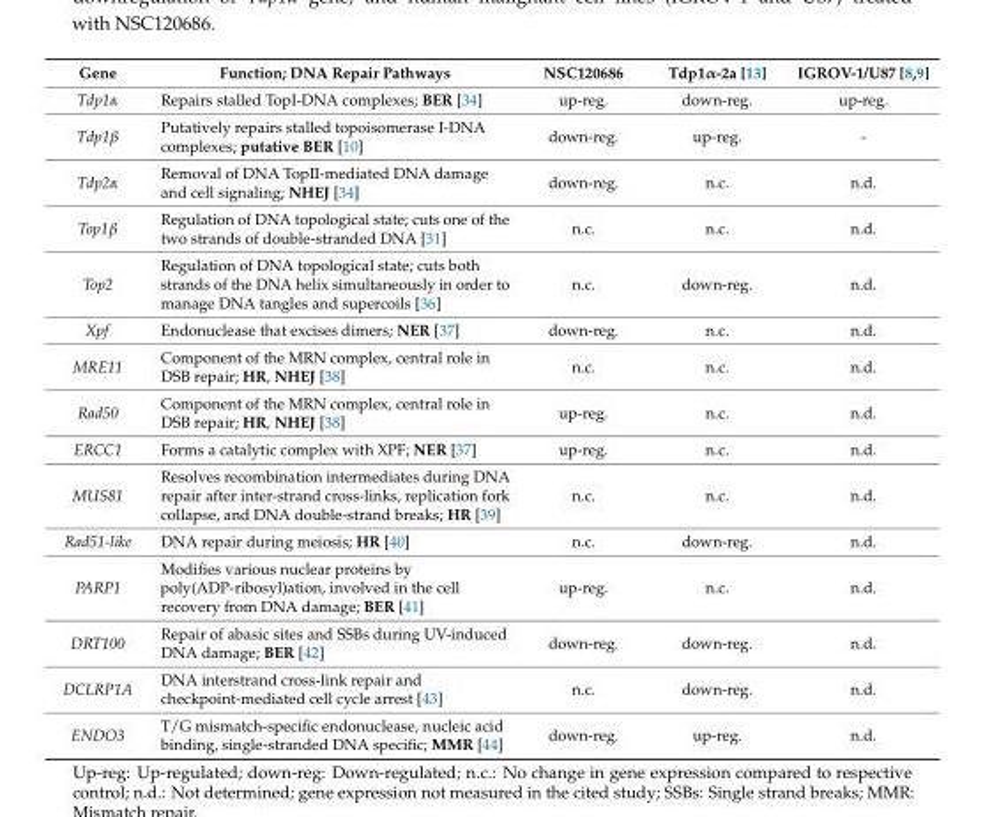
<table><thead><tr><td>Gene</td><td>Function; DNA Repair Pathways</td><td>NSC120686</td><td>Tdp1α-2a [13]</td><td>IGROV-1/U87 [8,9]</td></tr></thead><tbody><tr><td>Tdp1α</td><td>Repairs stalled TopI-DNA complexes; BER [34]</td><td>up-reg.</td><td>down-reg.</td><td>up-reg.</td></tr><tr><td>Tdp1β</td><td>Putatively repairs stalled topoisomerase I-DNA complexes; putative BER [10]</td><td>down-reg.</td><td>up-reg.</td><td>-</td></tr><tr><td>Tdp2α</td><td>Removal of DNA TopII-mediated DNA damage and cell signaling; NHEJ [34]</td><td>down-reg.</td><td>n.c.</td><td>n.d.</td></tr><tr><td>Top1β</td><td>Regulation of DNA topological state; cuts one of the two strands of double-stranded DNA [31]</td><td>n.c.</td><td>n.c.</td><td>n.d.</td></tr><tr><td>Top2</td><td>Regulation of DNA topological state; cuts both strands of the DNA helix simultaneously in order to manage DNA tangles and supercoils [36]</td><td>n.c.</td><td>down-reg.</td><td>n.d.</td></tr><tr><td>Xpf</td><td>Endonuclease that excises dimers; NER [37]</td><td>down-reg.</td><td>n.c.</td><td>n.d.</td></tr><tr><td>MRE11</td><td>Component of the MRN complex, central role in DSB repair; HR, NHEJ [38]</td><td>n.c.</td><td>n.c.</td><td>n.d.</td></tr><tr><td>Rad50</td><td>Component of the MRN complex, central role in DSB repair; HR, NHEJ [38]</td><td>up-reg.</td><td>n.c.</td><td>n.d.</td></tr><tr><td>ERCC1</td><td>Forms a catalytic complex with XPF; NER [37]</td><td>up-reg.</td><td>n.c.</td><td>n.d.</td></tr><tr><td>MUS81</td><td>Resolves recombination intermediates during DNA repair after inter-strand cross-links, replication fork collapse, and DNA double-strand breaks; HR [39]</td><td>n.c.</td><td>n.c.</td><td>n.d.</td></tr><tr><td>Rad51-like</td><td>DNA repair during meiosis; HR [40]</td><td>n.c.</td><td>down-reg.</td><td>n.d.</td></tr><tr><td>PARP1</td><td>Modifies various nuclear proteins by poly(ADP-ribosyl)ation, involved in the cell recovery from DNA damage; BER [41]</td><td>up-reg.</td><td>n.c.</td><td>n.d.</td></tr><tr><td>DRT100</td><td>Repair of abasic sites and SSBs during UV-induced DNA damage; BER [42]</td><td>down-reg.</td><td>down-reg.</td><td>n.d.</td></tr><tr><td>DCLRP1A</td><td>DNA interstrand cross-link repair and checkpoint-mediated cell cycle arrest [43]</td><td>n.c.</td><td>down-reg.</td><td>n.d.</td></tr><tr><td>ENDO3</td><td>T/G mismatch-specific endonuclease, nucleic acid binding, single-stranded DNA specific; MMR [44]</td><td>down-reg.</td><td>up-reg.</td><td>n.d.</td></tr></tbody></table>